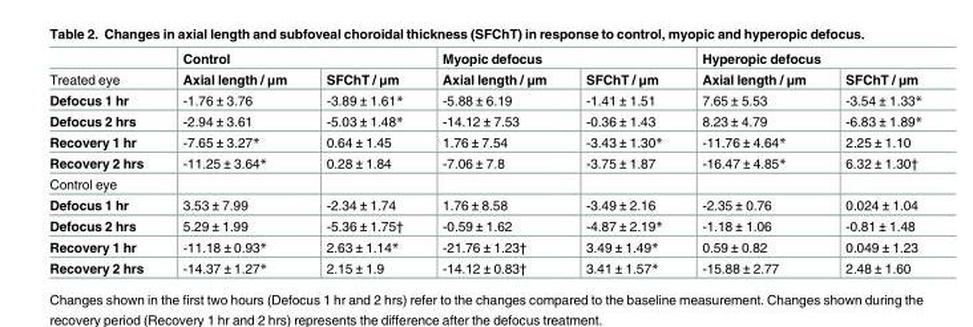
<table><thead><tr><td rowspan="2">Treated eye</td><td colspan="2">Control</td><td colspan="2">Myopic defocus</td><td colspan="2">Hyperopic defocus</td></tr><tr><td>Axial length / μm</td><td>SFChT / μm</td><td>Axial length / μm</td><td>SFChT / μm</td><td>Axial length / μm</td><td>SFChT / μm</td></tr></thead><tbody><tr><td>Defocus 1 hr</td><td>-1.76 ± 3.76</td><td>-3.89 ± 1.61*</td><td>-5.88 ± 6.19</td><td>-1.41 ± 1.51</td><td>7.65 ± 5.53</td><td>-3.54 ± 1.33*</td></tr><tr><td>Defocus 2 hrs</td><td>-2.94 ± 3.61</td><td>-5.03 ± 1.48*</td><td>-14.12 ± 7.53</td><td>-0.36 ± 1.43</td><td>8.23 ± 4.79</td><td>-6.83 ± 1.89*</td></tr><tr><td>Recovery 1 hr</td><td>-7.65 ± 3.27*</td><td>0.64 ± 1.45</td><td>1.76 ± 7.54</td><td>-3.43 ± 1.30*</td><td>-11.76 ± 4.64*</td><td>2.25 ± 1.10</td></tr><tr><td>Recovery 2 hrs</td><td>-11.25 ± 3.64*</td><td>0.28 ± 1.84</td><td>-7.06 ± 7.8</td><td>-3.75 ± 1.87</td><td>-16.47 ± 4.85*</td><td>6.32 ± 1.30†</td></tr><tr><td colspan="7">Control eye</td></tr><tr><td>Defocus 1 hr</td><td>3.53 ± 7.99</td><td>-2.34 ± 1.74</td><td>1.76 ± 8.58</td><td>-3.49 ± 2.16</td><td>-2.35 ± 0.76</td><td>0.024 ± 1.04</td></tr><tr><td>Defocus 2 hrs</td><td>5.29 ± 1.99</td><td>-5.36 ± 1.75†</td><td>-0.59 ± 1.62</td><td>-4.87 ± 2.19*</td><td>-1.18 ± 1.06</td><td>-0.81 ± 1.48</td></tr><tr><td>Recovery 1 hr</td><td>-11.18 ± 0.93*</td><td>2.63 ± 1.14*</td><td>-21.76 ± 1.23†</td><td>3.49 ± 1.49*</td><td>0.59 ± 0.82</td><td>0.049 ± 1.23</td></tr><tr><td>Recovery 2 hrs</td><td>-14.37 ± 1.27*</td><td>2.15 ± 1.9</td><td>-14.12 ± 0.83†</td><td>3.41 ± 1.57*</td><td>-15.88 ± 2.77</td><td>2.48 ± 1.60</td></tr></tbody></table>